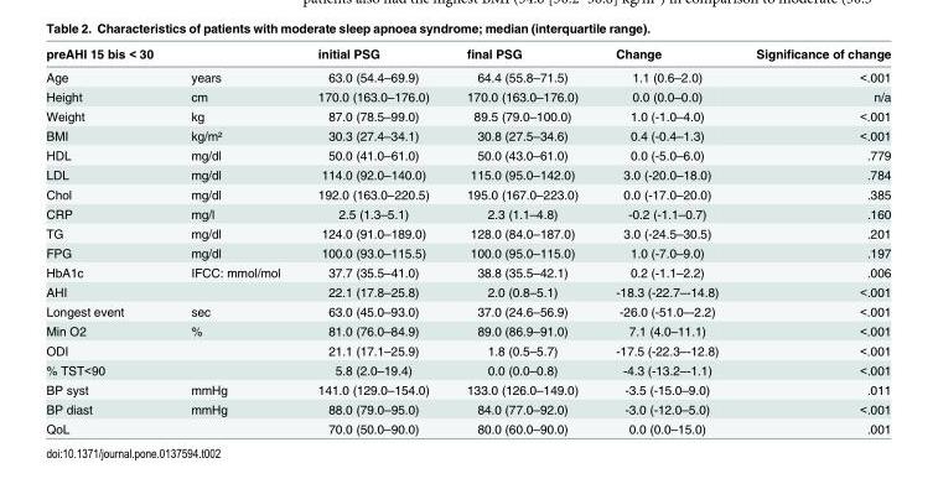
<table><thead><tr><td>preAHI 15 bis &lt; 30</td><td></td><td>initial PSG</td><td>final PSG</td><td>Change</td><td>Significance of change</td></tr></thead><tbody><tr><td>Age</td><td>years</td><td>63.0 (54.4–69.9)</td><td>64.4 (55.8–71.5)</td><td>1.1 (0.6–2.0)</td><td>&lt;.001</td></tr><tr><td>Height</td><td>cm</td><td>170.0 (163.0–176.0)</td><td>170.0 (163.0–176.0)</td><td>0.0 (0.0–0.0)</td><td>n/a</td></tr><tr><td>Weight</td><td>kg</td><td>87.0 (78.5–99.0)</td><td>89.5 (79.0–100.0)</td><td>1.0 (-1.0–4.0)</td><td>&lt;.001</td></tr><tr><td>BMI</td><td>kg/m²</td><td>30.3 (27.4–34.1)</td><td>30.8 (27.5–34.6)</td><td>0.4 (-0.4–1.3)</td><td>&lt;.001</td></tr><tr><td>HDL</td><td>mg/dl</td><td>50.0 (41.0–61.0)</td><td>50.0 (43.0–61.0)</td><td>0.0 (-5.0–6.0)</td><td>.779</td></tr><tr><td>LDL</td><td>mg/dl</td><td>114.0 (92.0–140.0)</td><td>115.0 (95.0–142.0)</td><td>3.0 (-20.0–18.0)</td><td>.784</td></tr><tr><td>Chol</td><td>mg/dl</td><td>192.0 (163.0–220.5)</td><td>195.0 (167.0–223.0)</td><td>0.0 (-17.0–20.0)</td><td>.385</td></tr><tr><td>CRP</td><td>mg/l</td><td>2.5 (1.3–5.1)</td><td>2.3 (1.1–4.8)</td><td>-0.2 (-1.1–0.7)</td><td>.160</td></tr><tr><td>TG</td><td>mg/dl</td><td>124.0 (91.0–189.0)</td><td>128.0 (84.0–187.0)</td><td>3.0 (-24.5–30.5)</td><td>.201</td></tr><tr><td>FPG</td><td>mg/dl</td><td>100.0 (93.0–115.5)</td><td>100.0 (95.0–115.0)</td><td>1.0 (-7.0–9.0)</td><td>.197</td></tr><tr><td>HbA1c</td><td>IFCC: mmol/mol</td><td>37.7 (35.5–41.0)</td><td>38.8 (35.5–42.1)</td><td>0.2 (-1.1–2.2)</td><td>.006</td></tr><tr><td>AHI</td><td></td><td>22.1 (17.8–25.8)</td><td>2.0 (0.8–5.1)</td><td>-18.3 (-22.7–-14.8)</td><td>&lt;.001</td></tr><tr><td>Longest event</td><td>sec</td><td>63.0 (45.0–93.0)</td><td>37.0 (24.6–56.9)</td><td>-26.0 (-51.0–-2.2)</td><td>&lt;.001</td></tr><tr><td>Min O2</td><td>%</td><td>81.0 (76.0–84.9)</td><td>89.0 (86.9–91.0)</td><td>7.1 (4.0–11.1)</td><td>&lt;.001</td></tr><tr><td>ODI</td><td></td><td>21.1 (17.1–25.9)</td><td>1.8 (0.5–5.7)</td><td>-17.5 (-22.3–-12.8)</td><td>&lt;.001</td></tr><tr><td>% TST&lt;90</td><td></td><td>5.8 (2.0–19.4)</td><td>0.0 (0.0–0.8)</td><td>-4.3 (-13.2–-1.1)</td><td>&lt;.001</td></tr><tr><td>BP syst</td><td>mmHg</td><td>141.0 (129.0–154.0)</td><td>133.0 (126.0–149.0)</td><td>-3.5 (-15.0–9.0)</td><td>.011</td></tr><tr><td>BP diast</td><td>mmHg</td><td>88.0 (79.0–95.0)</td><td>84.0 (77.0–92.0)</td><td>-3.0 (-12.0–5.0)</td><td>&lt;.001</td></tr><tr><td>QoL</td><td></td><td>70.0 (50.0–90.0)</td><td>80.0 (60.0–90.0)</td><td>0.0 (0.0–15.0)</td><td>.001</td></tr></tbody></table>